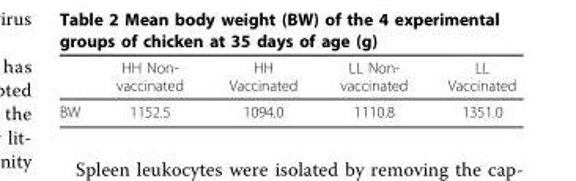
<table><thead><tr><td></td><td>HH Non- vaccinated</td><td>HH Vaccinated</td><td>LL Non- vaccinated</td><td>LL Vaccinated</td></tr></thead><tbody><tr><td>BW</td><td>1152.5</td><td>1094.0</td><td>1110.8</td><td>1351.0</td></tr></tbody></table>